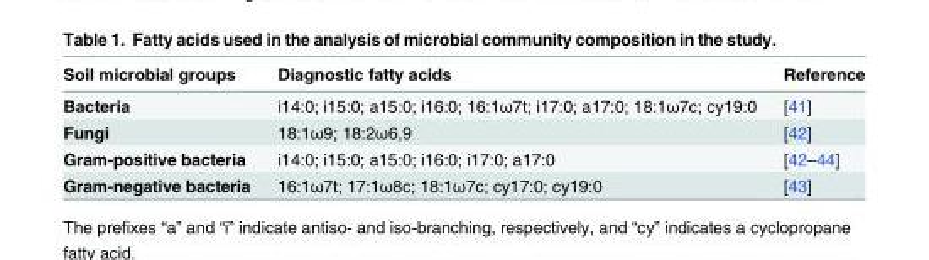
<table><thead><tr><td>Soil microbial groups</td><td>Diagnostic fatty acids</td><td>Reference</td></tr></thead><tbody><tr><td>Bacteria</td><td>i14:0; i15:0; a15:0; i16:0; 16:1ω7t; i17:0; a17:0; 18:1ω7c; cy19:0</td><td>[41]</td></tr><tr><td>Fungi</td><td>18:1ω9; 18:2ω6,9</td><td>[42]</td></tr><tr><td>Gram-positive bacteria</td><td>i14:0; i15:0; a15:0; i16:0; i17:0; a17:0</td><td>[42–44]</td></tr><tr><td>Gram-negative bacteria</td><td>16:1ω7t; 17:1ω8c; 18:1ω7c; cy17:0; cy19:0</td><td>[43]</td></tr></tbody></table>